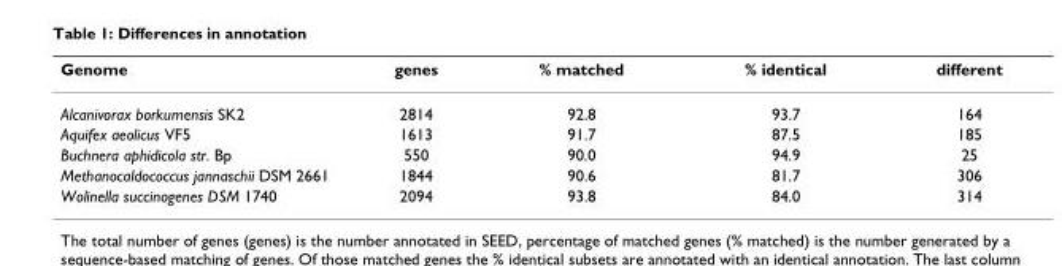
<table><thead><tr><td>Genome</td><td>genes</td><td>% matched</td><td>% identical</td><td>different</td></tr></thead><tbody><tr><td>Alcanivorax borkumensis SK2</td><td>2814</td><td>92.8</td><td>93.7</td><td>164</td></tr><tr><td>Aquifex aeolicus VF5</td><td>1613</td><td>91.7</td><td>87.5</td><td>185</td></tr><tr><td>Buchnera aphidicola str. Bp</td><td>550</td><td>90.0</td><td>94.9</td><td>25</td></tr><tr><td>Methanocaldococcus jannaschii DSM 2661</td><td>1844</td><td>90.6</td><td>81.7</td><td>306</td></tr><tr><td>Wolinella succinogenes DSM 1740</td><td>2094</td><td>93.8</td><td>84.0</td><td>314</td></tr></tbody></table>